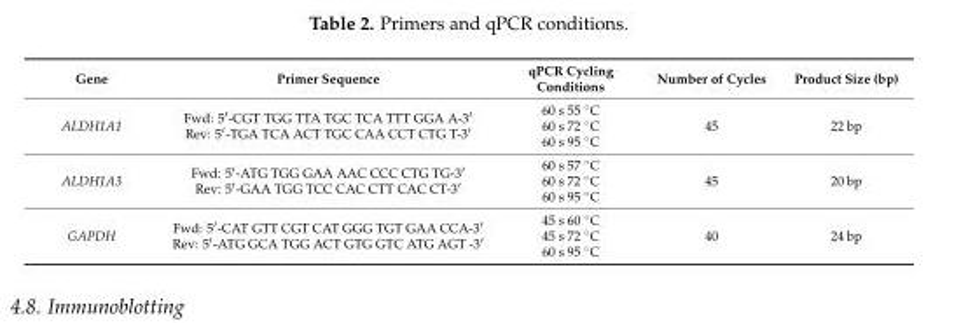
<table><thead><tr><td>Gene</td><td>Primer Sequence</td><td>qPCR Cycling Conditions</td><td>Number of Cycles</td><td>Product Size (bp)</td></tr></thead><tbody><tr><td>ALDH1A1</td><td>Fwd: 5′-CGT TGG TTA TGC TCA TTT GGA A-3′ Rev: 5′-TGA TCA ACT TGC CAA CCT CTG T-3′</td><td>60 s 55 ◦C 60 s 72 ◦C 60 s 95 ◦C</td><td>45</td><td>22 bp</td></tr><tr><td>ALDH1A3</td><td>Fwd: 5′-ATG TGG GAA AAC CCC CTG TG-3′ Rev: 5′-GAA TGG TCC CAC CTT CAC CT-3′</td><td>60 s 57 ◦C 60 s 72 ◦C 60 s 95 ◦C</td><td>45</td><td>20 bp</td></tr><tr><td>GAPDH</td><td>Fwd: 5′-CAT GTT CGT CAT GGG TGT GAA CCA-3′ Rev: 5′-ATG GCA TGG ACT GTG GTC ATG AGT -3′</td><td>45 s 60 ◦C 45 s 72 ◦C 60 s 95 ◦C</td><td>40</td><td>24 bp</td></tr></tbody></table>